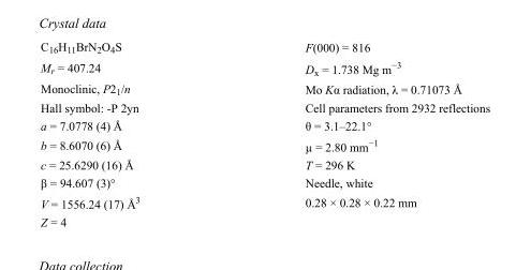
<table><tbody><tr><td>C<sub>16</sub>H<sub>11</sub>BrN<sub>2</sub>O<sub>4</sub>S</td><td>F(000) = 816</td></tr><tr><td>M<sub>r</sub> = 407.24</td><td>D<sub>x</sub> = 1.738 Mg m<sup>−3</sup></td></tr><tr><td>Monoclinic, P2<sub>1</sub>/n</td><td>Mo Kα radiation, λ = 0.71073 Å</td></tr><tr><td>Hall symbol: -P 2yn</td><td>Cell parameters from 2932 reflections</td></tr><tr><td>a = 7.0778 (4) Å</td><td>θ = 3.1–22.1°</td></tr><tr><td>b = 8.6070 (6) Å</td><td>µ = 2.80 mm<sup>−1</sup></td></tr><tr><td>c = 25.6290 (16) Å</td><td>T = 296 K</td></tr><tr><td>β = 94.607 (3)°</td><td>Needle, white</td></tr><tr><td>V = 1556.24 (17) Å<sup>3</sup></td><td>0.28 × 0.28 × 0.22 mm</td></tr><tr><td>Z = 4</td><td></td></tr></tbody></table>